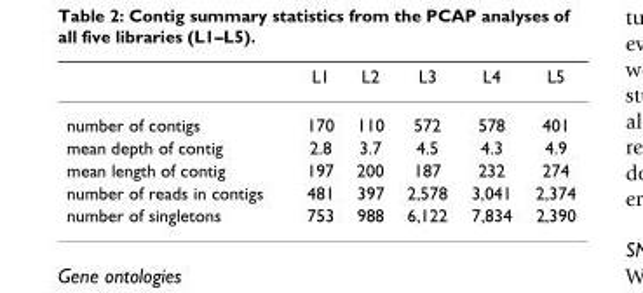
<table><thead><tr><td></td><td>L1</td><td>L2</td><td>L3</td><td>L4</td><td>L5</td></tr></thead><tbody><tr><td>number of contigs</td><td>170</td><td>110</td><td>572</td><td>578</td><td>401</td></tr><tr><td>mean depth of contig</td><td>2.8</td><td>3.7</td><td>4.5</td><td>4.3</td><td>4.9</td></tr><tr><td>mean length of contig</td><td>197</td><td>200</td><td>187</td><td>232</td><td>274</td></tr><tr><td>number of reads in contigs</td><td>481</td><td>397</td><td>2,578</td><td>3,041</td><td>2,374</td></tr><tr><td>number of singletons</td><td>753</td><td>988</td><td>6,122</td><td>7,834</td><td>2,390</td></tr></tbody></table>